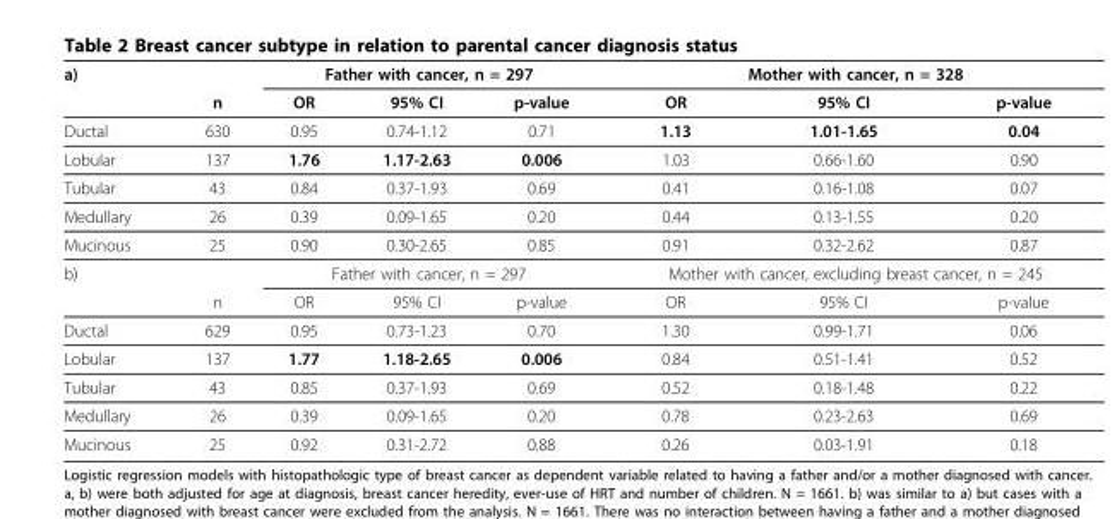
<table><thead><tr><td rowspan="2">a)</td><td rowspan="2">n</td><td colspan="3">Father with cancer, n = 297</td><td colspan="3">Mother with cancer, n = 328</td></tr><tr><td>OR</td><td>95% CI</td><td>p-value</td><td>OR</td><td>95% CI</td><td>p-value</td></tr></thead><tbody><tr><td>Ductal</td><td>630</td><td>0.95</td><td>0.74-1.12</td><td>0.71</td><td>1.13</td><td>1.01-1.65</td><td>0.04</td></tr><tr><td>Lobular</td><td>137</td><td>1.76</td><td>1.17-2.63</td><td>0.006</td><td>1.03</td><td>0.66-1.60</td><td>0.90</td></tr><tr><td>Tubular</td><td>43</td><td>0.84</td><td>0.37-1.93</td><td>0.69</td><td>0.41</td><td>0.16-1.08</td><td>0.07</td></tr><tr><td>Medullary</td><td>26</td><td>0.39</td><td>0.09-1.65</td><td>0.20</td><td>0.44</td><td>0.13-1.55</td><td>0.20</td></tr><tr><td>Mucinous</td><td>25</td><td>0.90</td><td>0.30-2.65</td><td>0.85</td><td>0.91</td><td>0.32-2.62</td><td>0.87</td></tr><tr><td rowspan="2">b)</td><td></td><td colspan="3">Father with cancer, n = 297</td><td colspan="3">Mother with cancer, excluding breast cancer, n = 245</td></tr><tr><td>n</td><td>OR</td><td>95% CI</td><td>p-value</td><td>OR</td><td>95% CI</td><td>p-value</td></tr><tr><td>Ductal</td><td>629</td><td>0.95</td><td>0.73-1.23</td><td>0.70</td><td>1.30</td><td>0.99-1.71</td><td>0.06</td></tr><tr><td>Lobular</td><td>137</td><td>1.77</td><td>1.18-2.65</td><td>0.006</td><td>0.84</td><td>0.51-1.41</td><td>0.52</td></tr><tr><td>Tubular</td><td>43</td><td>0.85</td><td>0.37-1.93</td><td>0.69</td><td>0.52</td><td>0.18-1.48</td><td>0.22</td></tr><tr><td>Medullary</td><td>26</td><td>0.39</td><td>0.09-1.65</td><td>0.20</td><td>0.78</td><td>0.23-2.63</td><td>0.69</td></tr><tr><td>Mucinous</td><td>25</td><td>0.92</td><td>0.31-2.72</td><td>0.88</td><td>0.26</td><td>0.03-1.91</td><td>0.18</td></tr></tbody></table>